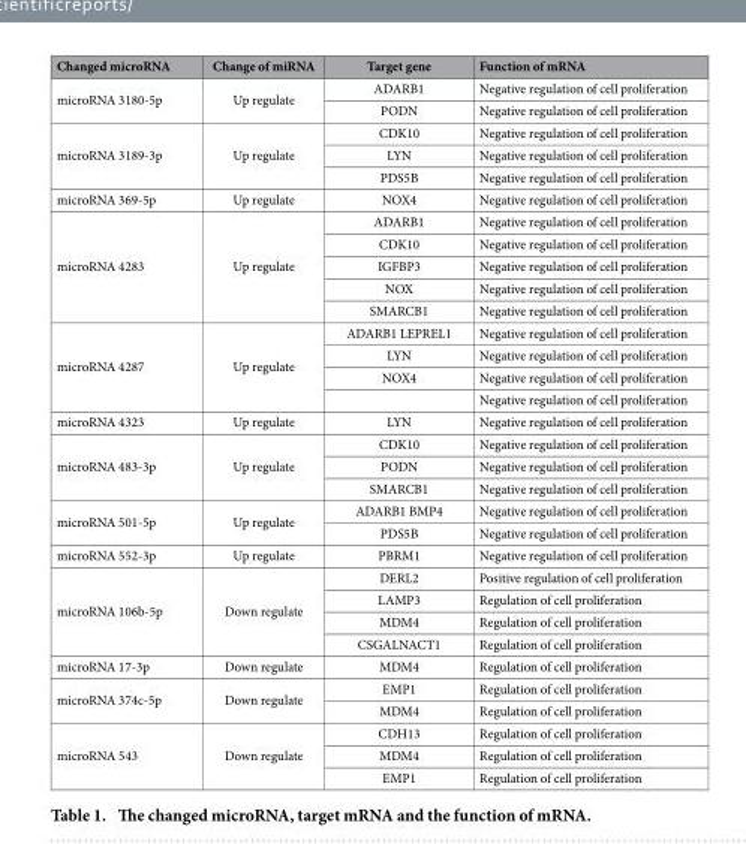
<table><thead><tr><td>Changed microRNA</td><td>Change of miRNA</td><td>Target gene</td><td>Function of mRNA</td></tr></thead><tbody><tr><td rowspan="2">microRNA 3180-5p</td><td rowspan="2">Up regulate</td><td>ADARB1</td><td>Negative regulation of cell proliferation</td></tr><tr><td>PODN</td><td>Negative regulation of cell proliferation</td></tr><tr><td rowspan="3">microRNA 3189-3p</td><td rowspan="3">Up regulate</td><td>CDK10</td><td>Negative regulation of cell proliferation</td></tr><tr><td>LYN</td><td>Negative regulation of cell proliferation</td></tr><tr><td>PDS5B</td><td>Negative regulation of cell proliferation</td></tr><tr><td>microRNA 369-5p</td><td>Up regulate</td><td>NOX4</td><td>Negative regulation of cell proliferation</td></tr><tr><td rowspan="5">microRNA 4283</td><td rowspan="5">Up regulate</td><td>ADARB1</td><td>Negative regulation of cell proliferation</td></tr><tr><td>CDK10</td><td>Negative regulation of cell proliferation</td></tr><tr><td>IGFBP3</td><td>Negative regulation of cell proliferation</td></tr><tr><td>NOX</td><td>Negative regulation of cell proliferation</td></tr><tr><td>SMARCB1</td><td>Negative regulation of cell proliferation</td></tr><tr><td rowspan="4">microRNA 4287</td><td rowspan="4">Up regulate</td><td>ADARB1 LEPREL1</td><td>Negative regulation of cell proliferation</td></tr><tr><td>LYN</td><td>Negative regulation of cell proliferation</td></tr><tr><td>NOX4</td><td>Negative regulation of cell proliferation</td></tr><tr><td></td><td>Negative regulation of cell proliferation</td></tr><tr><td>microRNA 4323</td><td>Up regulate</td><td>LYN</td><td>Negative regulation of cell proliferation</td></tr><tr><td rowspan="3">microRNA 483-3p</td><td rowspan="3">Up regulate</td><td>CDK10</td><td>Negative regulation of cell proliferation</td></tr><tr><td>PODN</td><td>Negative regulation of cell proliferation</td></tr><tr><td>SMARCB1</td><td>Negative regulation of cell proliferation</td></tr><tr><td rowspan="2">microRNA 501-5p</td><td rowspan="2">Up regulate</td><td>ADARB1 BMP4</td><td>Negative regulation of cell proliferation</td></tr><tr><td>PDS5B</td><td>Negative regulation of cell proliferation</td></tr><tr><td>microRNA 552-3p</td><td>Up regulate</td><td>PBRM1</td><td>Negative regulation of cell proliferation</td></tr><tr><td rowspan="4">microRNA 106b-5p</td><td rowspan="4">Down regulate</td><td>DERL2</td><td>Positive regulation of cell proliferation</td></tr><tr><td>LAMP3</td><td>Regulation of cell proliferation</td></tr><tr><td>MDM4</td><td>Regulation of cell proliferation</td></tr><tr><td>CSGALNACT1</td><td>Regulation of cell proliferation</td></tr><tr><td>microRNA 17-3p</td><td>Down regulate</td><td>MDM4</td><td>Regulation of cell proliferation</td></tr><tr><td rowspan="2">microRNA 374c-5p</td><td rowspan="2">Down regulate</td><td>EMP1</td><td>Regulation of cell proliferation</td></tr><tr><td>MDM4</td><td>Regulation of cell proliferation</td></tr><tr><td rowspan="3">microRNA 543</td><td rowspan="3">Down regulate</td><td>CDH13</td><td>Regulation of cell proliferation</td></tr><tr><td>MDM4</td><td>Regulation of cell proliferation</td></tr><tr><td>EMP1</td><td>Regulation of cell proliferation</td></tr></tbody></table>